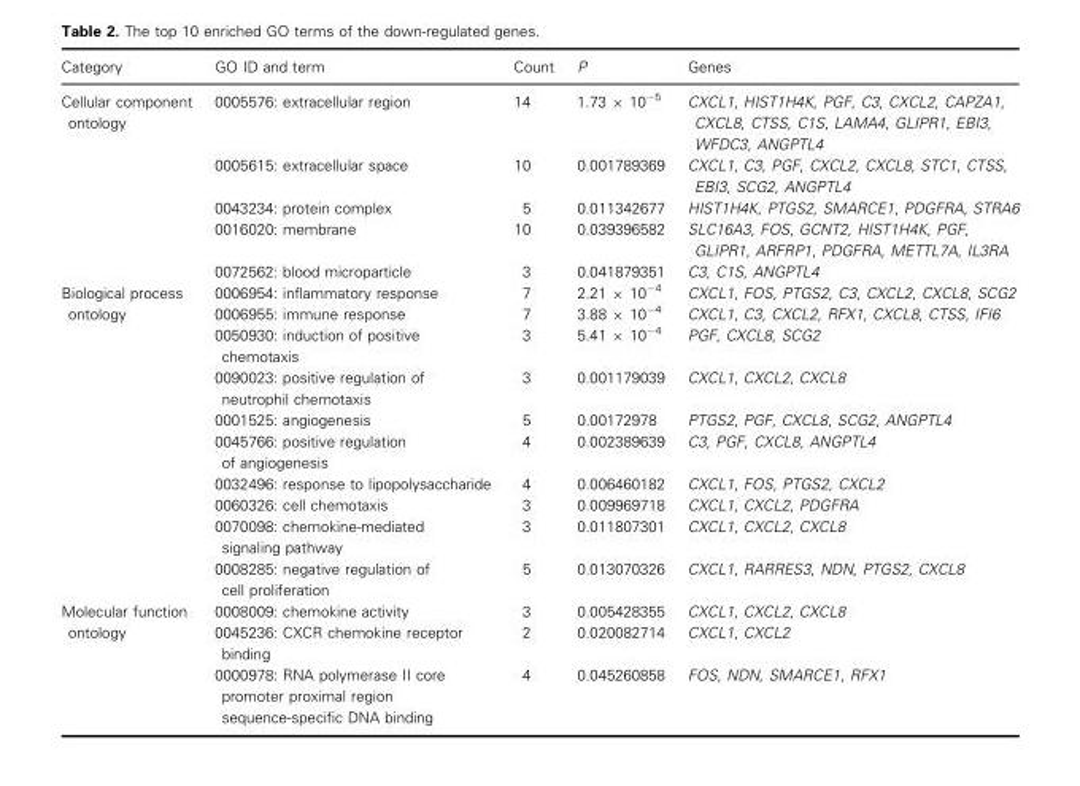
<table><thead><tr><td>Category</td><td>GO ID and term</td><td>Count</td><td>P</td><td>Genes</td></tr></thead><tbody><tr><td rowspan="5">Cellular component ontology</td><td>0005576: extracellular region</td><td>14</td><td>1.73 × 10<sup>−5</sup></td><td>CXCL1, HIST1H4K, PGF, C3, CXCL2, CAPZA1, CXCL8, CTSS, C1S, LAMA4, GLIPR1, EBI3, WFDC3, ANGPTL4</td></tr><tr><td>0005615: extracellular space</td><td>10</td><td>0.001789369</td><td>CXCL1, C3, PGF, CXCL2, CXCL8, STC1, CTSS, EBI3, SCG2, ANGPTL4</td></tr><tr><td>0043234: protein complex</td><td>5</td><td>0.011342677</td><td>HIST1H4K, PTGS2, SMARCE1, PDGFRA, STRA6</td></tr><tr><td>0016020: membrane</td><td>10</td><td>0.039396582</td><td>SLC16A3, FOS, GCNT2, HIST1H4K, PGF, GLIPR1, ARFRP1, PDGFRA, METTL7A, IL3RA</td></tr><tr><td>0072562: blood microparticle</td><td>3</td><td>0.041879351</td><td>C3, C1S, ANGPTL4</td></tr><tr><td rowspan="10">Biological process ontology</td><td>0006954: inflammatory response</td><td>7</td><td>2.21 × 10<sup>−4</sup></td><td>CXCL1, FOS, PTGS2, C3, CXCL2, CXCL8, SCG2</td></tr><tr><td>0006955: immune response</td><td>7</td><td>3.88 × 10<sup>−4</sup></td><td>CXCL1, C3, CXCL2, RFX1, CXCL8, CTSS, IFI6</td></tr><tr><td>0050930: induction of positive chemotaxis</td><td>3</td><td>5.41 × 10<sup>−4</sup></td><td>PGF, CXCL8, SCG2</td></tr><tr><td>0090023: positive regulation of neutrophil chemotaxis</td><td>3</td><td>0.001179039</td><td>CXCL1, CXCL2, CXCL8</td></tr><tr><td>0001525: angiogenesis</td><td>5</td><td>0.00172978</td><td>PTGS2, PGF, CXCL8, SCG2, ANGPTL4</td></tr><tr><td>0045766: positive regulation of angiogenesis</td><td>4</td><td>0.002389639</td><td>C3, PGF, CXCL8, ANGPTL4</td></tr><tr><td>0032496: response to lipopolysaccharide</td><td>4</td><td>0.006460182</td><td>CXCL1, FOS, PTGS2, CXCL2</td></tr><tr><td>0060326: cell chemotaxis</td><td>3</td><td>0.009969718</td><td>CXCL1, CXCL2, PDGFRA</td></tr><tr><td>0070098: chemokine-mediated signaling pathway</td><td>3</td><td>0.011807301</td><td>CXCL1, CXCL2, CXCL8</td></tr><tr><td>0008285: negative regulation of cell proliferation</td><td>5</td><td>0.013070326</td><td>CXCL1, RARRES3, NDN, PTGS2, CXCL8</td></tr><tr><td rowspan="3">Molecular function ontology</td><td>0008009: chemokine activity</td><td>3</td><td>0.005428355</td><td>CXCL1, CXCL2, CXCL8</td></tr><tr><td>0045236: CXCR chemokine receptor binding</td><td>2</td><td>0.020082714</td><td>CXCL1, CXCL2</td></tr><tr><td>0000978: RNA polymerase II core promoter proximal region sequence-specific DNA binding</td><td>4</td><td>0.045260858</td><td>FOS, NDN, SMARCE1, RFX1</td></tr></tbody></table>